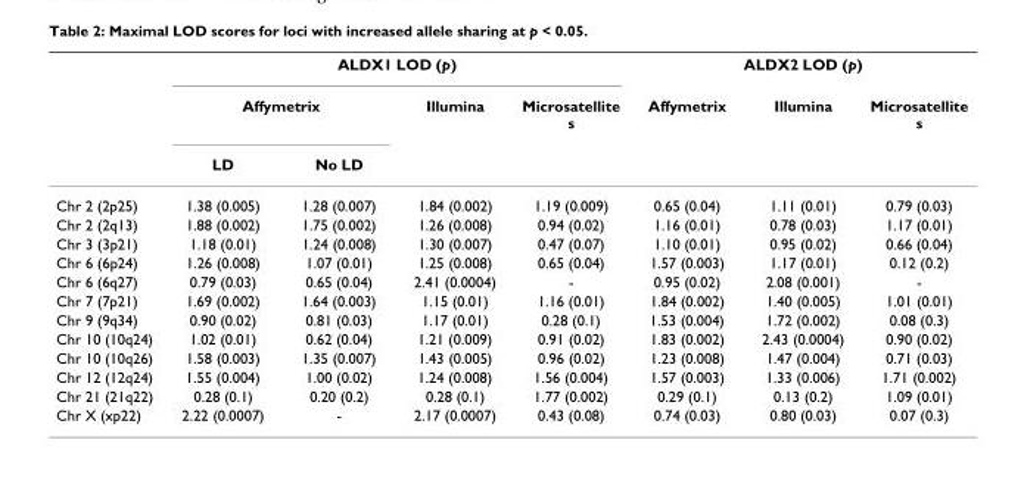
<table><thead><tr><td rowspan="3"></td><td colspan="4">ALDX1 LOD (p)</td><td colspan="3">ALDX2 LOD (p)</td></tr><tr><td colspan="2">Affymetrix</td><td rowspan="2">Illumina</td><td rowspan="2">Microsatellite s</td><td rowspan="2">Affymetrix</td><td rowspan="2">Illumina</td><td rowspan="2">Microsatellite s</td></tr><tr><td>LD</td><td>No LD</td></tr></thead><tbody><tr><td>Chr 2 (2p25)</td><td>1.38 (0.005)</td><td>1.28 (0.007)</td><td>1.84 (0.002)</td><td>1.19 (0.009)</td><td>0.65 (0.04)</td><td>1.11 (0.01)</td><td>0.79 (0.03)</td></tr><tr><td>Chr 2 (2q13)</td><td>1.88 (0.002)</td><td>1.75 (0.002)</td><td>1.26 (0.008)</td><td>0.94 (0.02)</td><td>1.16 (0.01)</td><td>0.78 (0.03)</td><td>1.17 (0.01)</td></tr><tr><td>Chr 3 (3p21)</td><td>1.18 (0.01)</td><td>1.24 (0.008)</td><td>1.30 (0.007)</td><td>0.47 (0.07)</td><td>1.10 (0.01)</td><td>0.95 (0.02)</td><td>0.66 (0.04)</td></tr><tr><td>Chr 6 (6p24)</td><td>1.26 (0.008)</td><td>1.07 (0.01)</td><td>1.25 (0.008)</td><td>0.65 (0.04)</td><td>1.57 (0.003)</td><td>1.17 (0.01)</td><td>0.12 (0.2)</td></tr><tr><td>Chr 6 (6q27)</td><td>0.79 (0.03)</td><td>0.65 (0.04)</td><td>2.41 (0.0004)</td><td>-</td><td>0.95 (0.02)</td><td>2.08 (0.001)</td><td>-</td></tr><tr><td>Chr 7 (7p21)</td><td>1.69 (0.002)</td><td>1.64 (0.003)</td><td>1.15 (0.01)</td><td>1.16 (0.01)</td><td>1.84 (0.002)</td><td>1.40 (0.005)</td><td>1.01 (0.01)</td></tr><tr><td>Chr 9 (9q34)</td><td>0.90 (0.02)</td><td>0.81 (0.03)</td><td>1.17 (0.01)</td><td>0.28 (0.1)</td><td>1.53 (0.004)</td><td>1.72 (0.002)</td><td>0.08 (0.3)</td></tr><tr><td>Chr 10 (10q24)</td><td>1.02 (0.01)</td><td>0.62 (0.04)</td><td>1.21 (0.009)</td><td>0.91 (0.02)</td><td>1.83 (0.002)</td><td>2.43 (0.0004)</td><td>0.90 (0.02)</td></tr><tr><td>Chr 10 (10q26)</td><td>1.58 (0.003)</td><td>1.35 (0.007)</td><td>1.43 (0.005)</td><td>0.96 (0.02)</td><td>1.23 (0.008)</td><td>1.47 (0.004)</td><td>0.71 (0.03)</td></tr><tr><td>Chr 12 (12q24)</td><td>1.55 (0.004)</td><td>1.00 (0.02)</td><td>1.24 (0.008)</td><td>1.56 (0.004)</td><td>1.57 (0.003)</td><td>1.33 (0.006)</td><td>1.71 (0.002)</td></tr><tr><td>Chr 21 (21q22)</td><td>0.28 (0.1)</td><td>0.20 (0.2)</td><td>0.28 (0.1)</td><td>1.77 (0.002)</td><td>0.29 (0.1)</td><td>0.13 (0.2)</td><td>1.09 (0.01)</td></tr><tr><td>Chr X (xp22)</td><td>2.22 (0.0007)</td><td>-</td><td>2.17 (0.0007)</td><td>0.43 (0.08)</td><td>0.74 (0.03)</td><td>0.80 (0.03)</td><td>0.07 (0.3)</td></tr></tbody></table>